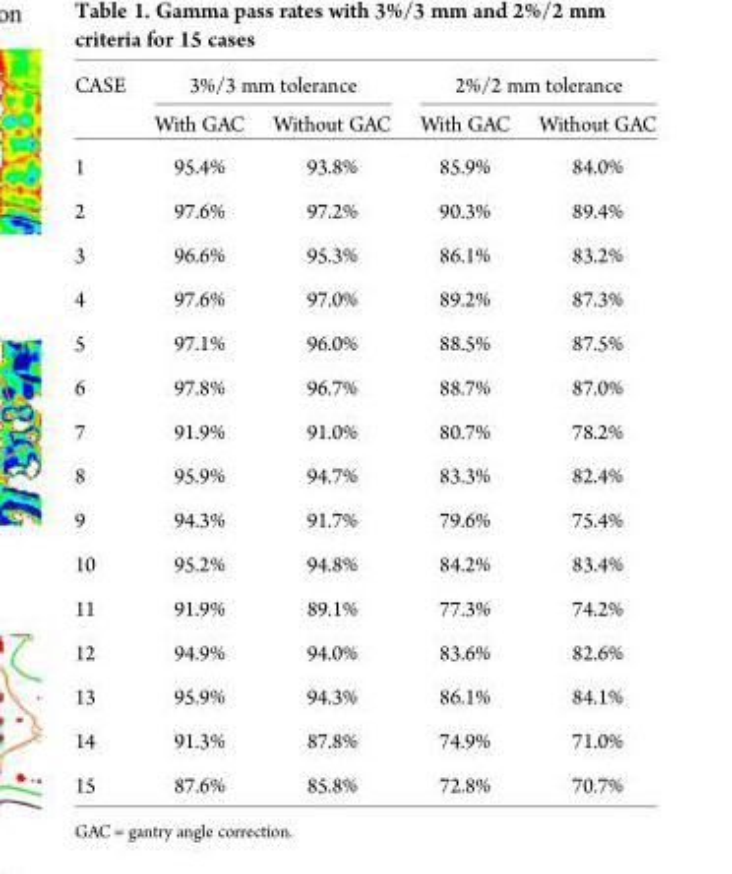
<table><thead><tr><td rowspan="2">CASE</td><td colspan="2">3%/3 mm tolerance</td><td colspan="2">2%/2 mm tolerance</td></tr><tr><td>With GAC</td><td>Without GAC</td><td>With GAC</td><td>Without GAC</td></tr></thead><tbody><tr><td>1</td><td>95.4%</td><td>93.8%</td><td>85.9%</td><td>84.0%</td></tr><tr><td>2</td><td>97.6%</td><td>97.2%</td><td>90.3%</td><td>89.4%</td></tr><tr><td>3</td><td>96.6%</td><td>95.3%</td><td>86.1%</td><td>83.2%</td></tr><tr><td>4</td><td>97.6%</td><td>97.0%</td><td>89.2%</td><td>87.3%</td></tr><tr><td>5</td><td>97.1%</td><td>96.0%</td><td>88.5%</td><td>87.5%</td></tr><tr><td>6</td><td>97.8%</td><td>96.7%</td><td>88.7%</td><td>87.0%</td></tr><tr><td>7</td><td>91.9%</td><td>91.0%</td><td>80.7%</td><td>78.2%</td></tr><tr><td>8</td><td>95.9%</td><td>94.7%</td><td>83.3%</td><td>82.4%</td></tr><tr><td>9</td><td>94.3%</td><td>91.7%</td><td>79.6%</td><td>75.4%</td></tr><tr><td>10</td><td>95.2%</td><td>94.8%</td><td>84.2%</td><td>83.4%</td></tr><tr><td>11</td><td>91.9%</td><td>89.1%</td><td>77.3%</td><td>74.2%</td></tr><tr><td>12</td><td>94.9%</td><td>94.0%</td><td>83.6%</td><td>82.6%</td></tr><tr><td>13</td><td>95.9%</td><td>94.3%</td><td>86.1%</td><td>84.1%</td></tr><tr><td>14</td><td>91.3%</td><td>87.8%</td><td>74.9%</td><td>71.0%</td></tr><tr><td>15</td><td>87.6%</td><td>85.8%</td><td>72.8%</td><td>70.7%</td></tr></tbody></table>